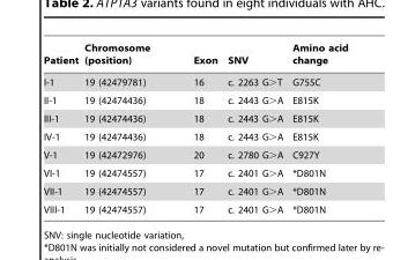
<table><thead><tr><td>Patient</td><td>Chromosome (position)</td><td>Exon</td><td>SNV</td><td>Amino acid change</td></tr></thead><tbody><tr><td>I-1</td><td>19 (42479781)</td><td>16</td><td>c. 2263 G&gt;T</td><td>G755C</td></tr><tr><td>II-1</td><td>19 (42474436)</td><td>18</td><td>c. 2443 G&gt;A</td><td>E815K</td></tr><tr><td>III-1</td><td>19 (42474436)</td><td>18</td><td>c. 2443 G&gt;A</td><td>E815K</td></tr><tr><td>IV-1</td><td>19 (42474436)</td><td>18</td><td>c. 2443 G&gt;A</td><td>E815K</td></tr><tr><td>V-1</td><td>19 (42472976)</td><td>20</td><td>c. 2780 G&gt;A</td><td>C927Y</td></tr><tr><td>VI-1</td><td>19 (42474557)</td><td>17</td><td>c. 2401 G&gt;A</td><td>*D801N</td></tr><tr><td>VII-1</td><td>19 (42474557)</td><td>17</td><td>c. 2401 G&gt;A</td><td>*D801N</td></tr><tr><td>VIII-1</td><td>19 (42474557)</td><td>17</td><td>c. 2401 G&gt;A</td><td>*D801N</td></tr></tbody></table>